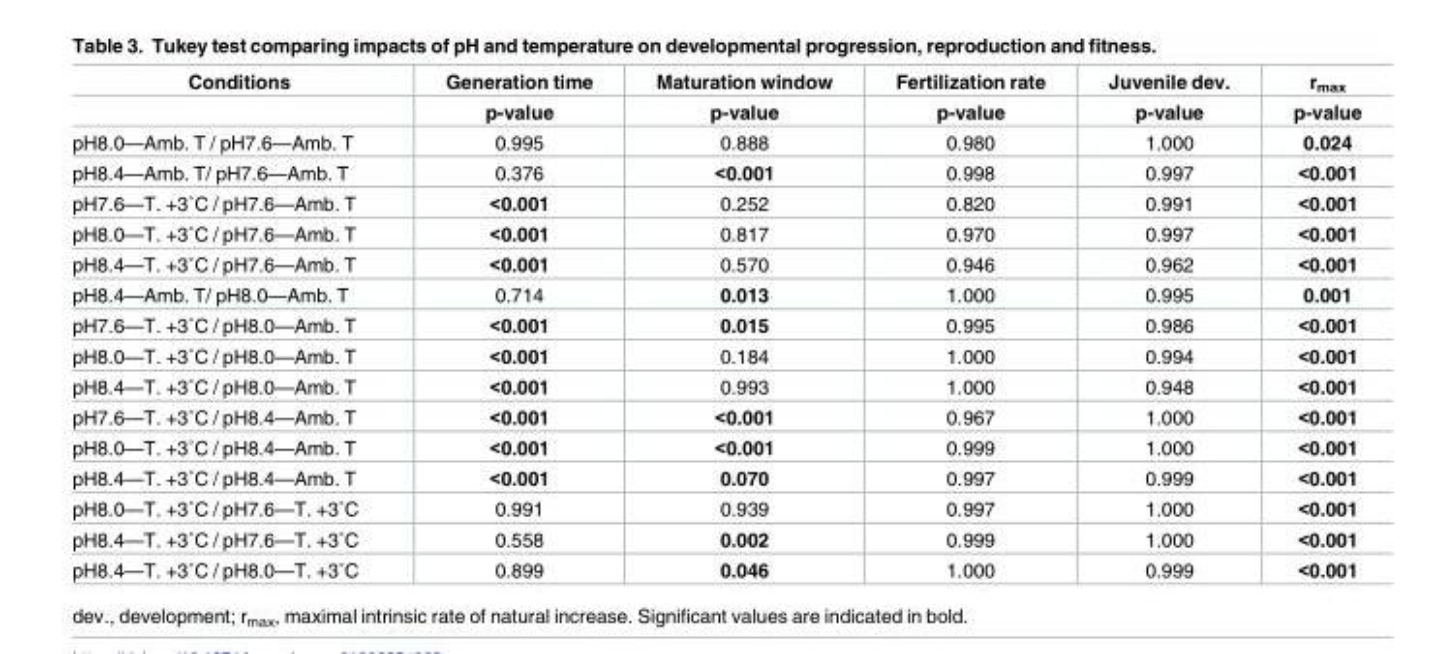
<table><thead><tr><td rowspan="2">Conditions</td><td rowspan="2">Generation time p-value</td><td rowspan="2">Maturation window p-value</td><td rowspan="2">Fertilization rate p-value</td><td rowspan="2">Juvenile dev. p-value</td><td rowspan="2">r<sub>max</sub> p-value</td></tr><tr></tr></thead><tbody><tr><td>pH8.0—Amb. T / pH7.6—Amb. T</td><td>0.995</td><td>0.888</td><td>0.980</td><td>1.000</td><td>0.024</td></tr><tr><td>pH8.4—Amb. T/ pH7.6—Amb. T</td><td>0.376</td><td>&lt;0.001</td><td>0.998</td><td>0.997</td><td>&lt;0.001</td></tr><tr><td>pH7.6—T. +3˚C / pH7.6—Amb. T</td><td>&lt;0.001</td><td>0.252</td><td>0.820</td><td>0.991</td><td>&lt;0.001</td></tr><tr><td>pH8.0—T. +3˚C / pH7.6—Amb. T</td><td>&lt;0.001</td><td>0.817</td><td>0.970</td><td>0.997</td><td>&lt;0.001</td></tr><tr><td>pH8.4—T. +3˚C / pH7.6—Amb. T</td><td>&lt;0.001</td><td>0.570</td><td>0.946</td><td>0.962</td><td>&lt;0.001</td></tr><tr><td>pH8.4—Amb. T/ pH8.0—Amb. T</td><td>0.714</td><td>0.013</td><td>1.000</td><td>0.995</td><td>0.001</td></tr><tr><td>pH7.6—T. +3˚C / pH8.0—Amb. T</td><td>&lt;0.001</td><td>0.015</td><td>0.995</td><td>0.986</td><td>&lt;0.001</td></tr><tr><td>pH8.0—T. +3˚C / pH8.0—Amb. T</td><td>&lt;0.001</td><td>0.184</td><td>1.000</td><td>0.994</td><td>&lt;0.001</td></tr><tr><td>pH8.4—T. +3˚C / pH8.0—Amb. T</td><td>&lt;0.001</td><td>0.993</td><td>1.000</td><td>0.948</td><td>&lt;0.001</td></tr><tr><td>pH7.6—T. +3˚C / pH8.4—Amb. T</td><td>&lt;0.001</td><td>&lt;0.001</td><td>0.967</td><td>1.000</td><td>&lt;0.001</td></tr><tr><td>pH8.0—T. +3˚C / pH8.4—Amb. T</td><td>&lt;0.001</td><td>&lt;0.001</td><td>0.999</td><td>1.000</td><td>&lt;0.001</td></tr><tr><td>pH8.4—T. +3˚C / pH8.4—Amb. T</td><td>&lt;0.001</td><td>0.070</td><td>0.997</td><td>0.999</td><td>&lt;0.001</td></tr><tr><td>pH8.0—T. +3˚C / pH7.6—T. +3˚C</td><td>0.991</td><td>0.939</td><td>0.997</td><td>1.000</td><td>&lt;0.001</td></tr><tr><td>pH8.4—T. +3˚C / pH7.6—T. +3˚C</td><td>0.558</td><td>0.002</td><td>0.999</td><td>1.000</td><td>&lt;0.001</td></tr><tr><td>pH8.4—T. +3˚C / pH8.0—T. +3˚C</td><td>0.899</td><td>0.046</td><td>1.000</td><td>0.999</td><td>&lt;0.001</td></tr></tbody></table>